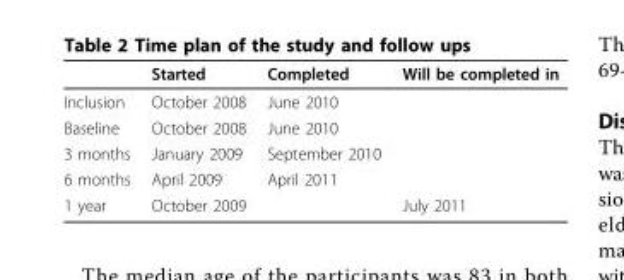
<table><thead><tr><td></td><td>Started</td><td>Completed</td><td>Will be completed in</td></tr></thead><tbody><tr><td>Inclusion</td><td>October 2008</td><td>June 2010</td><td></td></tr><tr><td>Baseline</td><td>October 2008</td><td>June 2010</td><td></td></tr><tr><td>3 months</td><td>January 2009</td><td>September 2010</td><td></td></tr><tr><td>6 months</td><td>April 2009</td><td>April 2011</td><td></td></tr><tr><td>1 year</td><td>October 2009</td><td></td><td>July 2011</td></tr></tbody></table>